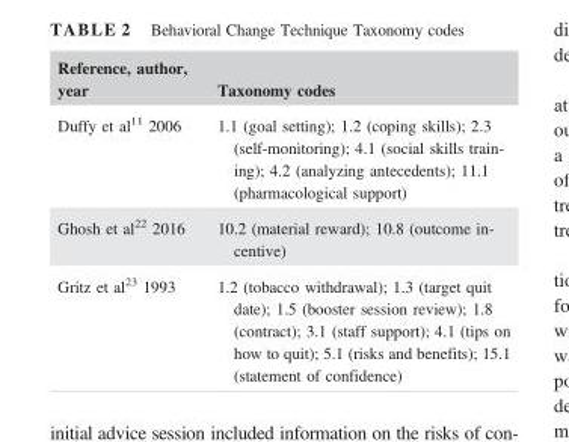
<table><thead><tr><td>Reference, author, year</td><td>Taxonomy codes</td></tr></thead><tbody><tr><td>Duffy et al<sup>11</sup> 2006</td><td>1.1 (goal setting); 1.2 (coping skills); 2.3 (self-monitoring); 4.1 (social skills train- ing); 4.2 (analyzing antecedents); 11.1 (pharmacological support)</td></tr><tr><td>Ghosh et al<sup>22</sup> 2016</td><td>10.2 (material reward); 10.8 (outcome in- centive)</td></tr><tr><td>Gritz et al<sup>23</sup> 1993</td><td>1.2 (tobacco withdrawal); 1.3 (target quit date); 1.5 (booster session review); 1.8 (contract); 3.1 (staff support); 4.1 (tips on how to quit); 5.1 (risks and benefits); 15.1 (statement of confidence)</td></tr></tbody></table>